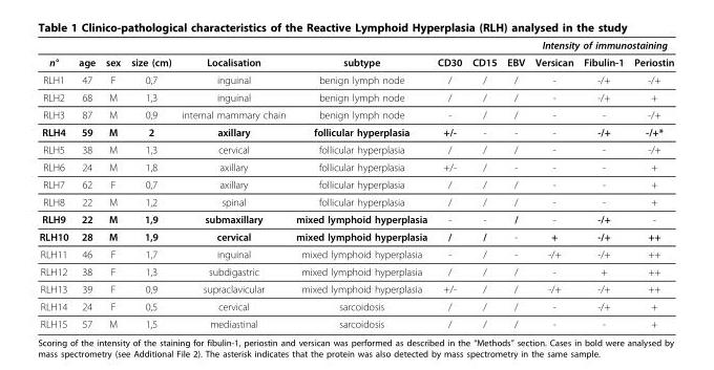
<table><thead><tr><td rowspan="2">n°</td><td rowspan="2">age</td><td rowspan="2">sex</td><td rowspan="2">size (cm)</td><td rowspan="2">Localisation</td><td rowspan="2">subtype</td><td rowspan="2">CD30</td><td rowspan="2">CD15</td><td rowspan="2">EBV</td><td colspan="3">Intensity of immunostaining</td></tr><tr><td>Versican</td><td>Fibulin-1</td><td>Periostin</td></tr></thead><tbody><tr><td>RLH1</td><td>47</td><td>F</td><td>0,7</td><td>inguinal</td><td>benign lymph node</td><td>/</td><td>/</td><td>/</td><td>-</td><td>-/+</td><td>-/+</td></tr><tr><td>RLH2</td><td>68</td><td>M</td><td>1,3</td><td>inguinal</td><td>benign lymph node</td><td>/</td><td>/</td><td>/</td><td>-</td><td>-/+</td><td>+</td></tr><tr><td>RLH3</td><td>87</td><td>M</td><td>0,9</td><td>internal mammary chain</td><td>benign lymph node</td><td>-</td><td>/</td><td>/</td><td>-</td><td>-</td><td>-/+</td></tr><tr><td>RLH4</td><td>59</td><td>M</td><td>2</td><td>axillary</td><td>follicular hyperplasia</td><td>+/-</td><td>-</td><td>-</td><td>-</td><td>-/+</td><td>-/+*</td></tr><tr><td>RLH5</td><td>38</td><td>M</td><td>1,3</td><td>cervical</td><td>follicular hyperplasia</td><td>/</td><td>/</td><td>/</td><td>-</td><td>-</td><td>-/+</td></tr><tr><td>RLH6</td><td>24</td><td>M</td><td>1,8</td><td>axillary</td><td>follicular hyperplasia</td><td>+/-</td><td>/</td><td>-</td><td>-</td><td>-</td><td>+</td></tr><tr><td>RLH7</td><td>62</td><td>F</td><td>0,7</td><td>axillary</td><td>follicular hyperplasia</td><td>/</td><td>/</td><td>/</td><td>-</td><td>-</td><td>+</td></tr><tr><td>RLH8</td><td>22</td><td>M</td><td>1,2</td><td>spinal</td><td>follicular hyperplasia</td><td>/</td><td>/</td><td>/</td><td>-</td><td>-</td><td>+</td></tr><tr><td>RLH9</td><td>22</td><td>M</td><td>1,9</td><td>submaxillary</td><td>mixed lymphoid hyperplasia</td><td>-</td><td>-</td><td>/</td><td>-</td><td>-/+</td><td>-</td></tr><tr><td>RLH10</td><td>28</td><td>M</td><td>1,9</td><td>cervical</td><td>mixed lymphoid hyperplasia</td><td>/</td><td>/</td><td>-</td><td>+</td><td>-/+</td><td>++</td></tr><tr><td>RLH11</td><td>46</td><td>F</td><td>1,7</td><td>inguinal</td><td>mixed lymphoid hyperplasia</td><td>-</td><td>/</td><td>-</td><td>-/+</td><td>-/+</td><td>++</td></tr><tr><td>RLH12</td><td>38</td><td>F</td><td>1,3</td><td>subdigastric</td><td>mixed lymphoid hyperplasia</td><td>/</td><td>/</td><td>/</td><td>-</td><td>+</td><td>++</td></tr><tr><td>RLH13</td><td>39</td><td>F</td><td>0,9</td><td>supraclavicular</td><td>mixed lymphoid hyperplasia</td><td>+/-</td><td>/</td><td>/</td><td>-/+</td><td>-/+</td><td>++</td></tr><tr><td>RLH14</td><td>24</td><td>F</td><td>0,5</td><td>cervical</td><td>sarcoidosis</td><td>/</td><td>/</td><td>/</td><td>-</td><td>-/+</td><td>+</td></tr><tr><td>RLH15</td><td>57</td><td>M</td><td>1,5</td><td>mediastinal</td><td>sarcoidosis</td><td>/</td><td>/</td><td>/</td><td>-</td><td>-</td><td>+</td></tr></tbody></table>